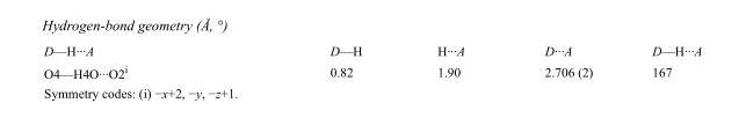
<table><tbody><tr><td>D—H···A</td><td>D—H</td><td>H···A</td><td>D···A</td><td>D—H···A</td></tr><tr><td>O4—H4O···O2<sup>i</sup></td><td>0.82</td><td>1.90</td><td>2.706 (2)</td><td>167</td></tr></tbody></table>